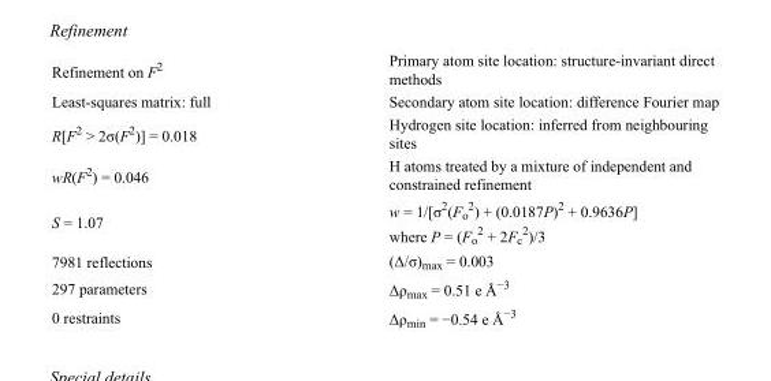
<table><tbody><tr><td>Refinement on F<sup>2</sup></td><td>Primary atom site location: structure-invariant direct methods</td></tr><tr><td>Least-squares matrix: full</td><td>Secondary atom site location: difference Fourier map</td></tr><tr><td>R[F<sup>2</sup> &gt; 2σ(F<sup>2</sup>)] = 0.018</td><td>Hydrogen site location: inferred from neighbouring sites</td></tr><tr><td>wR(F<sup>2</sup>) = 0.046</td><td>H atoms treated by a mixture of independent and constrained refinement</td></tr><tr><td>S = 1.07</td><td>w = 1/[σ<sup>2</sup>(F<sub>o</sub> <sup>2</sup>) + (0.0187P)<sup>2</sup> + 0.9636P] where P = (F<sub>o</sub> <sup>2</sup> + 2F<sub>c</sub> <sup>2</sup>)/3</td></tr><tr><td>7981 reflections</td><td>(Δ/σ)<sub>max</sub> = 0.003</td></tr><tr><td>297 parameters</td><td>Δρ<sub>max</sub> = 0.51 e Å<sup>−3</sup></td></tr><tr><td>0 restraints</td><td>Δρ<sub>min</sub> = −0.54 e Å<sup>−3</sup></td></tr></tbody></table>